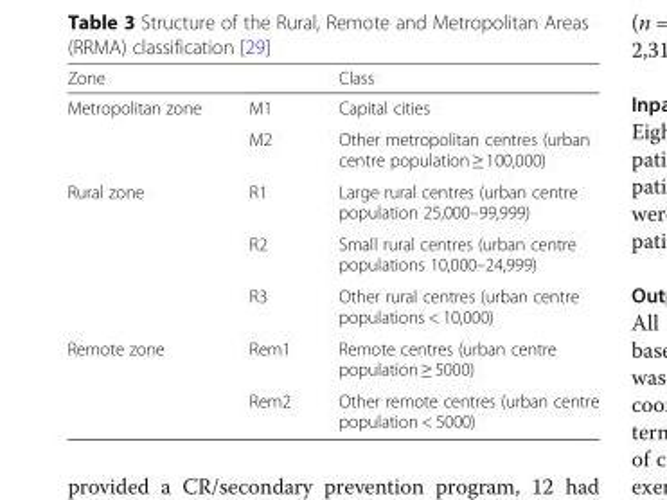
<table><thead><tr><td>Zone</td><td></td><td>Class</td></tr></thead><tbody><tr><td rowspan="2">Metropolitan zone</td><td>M1</td><td>Capital cities</td></tr><tr><td>M2</td><td>Other metropolitan centres (urban centre population ≥ 100,000)</td></tr><tr><td rowspan="3">Rural zone</td><td>R1</td><td>Large rural centres (urban centre population 25,000–99,999)</td></tr><tr><td>R2</td><td>Small rural centres (urban centre populations 10,000–24,999)</td></tr><tr><td>R3</td><td>Other rural centres (urban centre populations &lt; 10,000)</td></tr><tr><td rowspan="2">Remote zone</td><td>Rem1</td><td>Remote centres (urban centre population ≥ 5000)</td></tr><tr><td>Rem2</td><td>Other remote centres (urban centre population &lt; 5000)</td></tr></tbody></table>